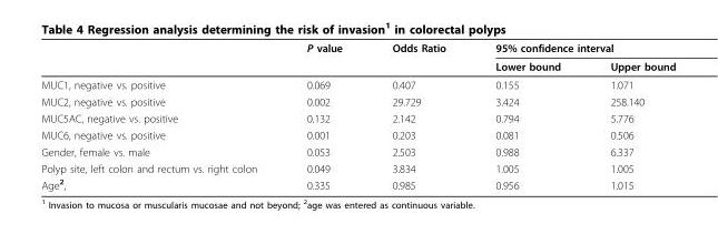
<table><thead><tr><td rowspan="2"></td><td rowspan="2">P value</td><td rowspan="2">Odds Ratio</td><td colspan="2">95% confidence interval</td></tr><tr><td>Lower bound</td><td>Upper bound</td></tr></thead><tbody><tr><td>MUC1, negative vs. positive</td><td>0.069</td><td>0.407</td><td>0.155</td><td>1.071</td></tr><tr><td>MUC2, negative vs. positive</td><td>0.002</td><td>29.729</td><td>3.424</td><td>258.140</td></tr><tr><td>MUC5AC, negative vs. positive</td><td>0.132</td><td>2.142</td><td>0.794</td><td>5.776</td></tr><tr><td>MUC6, negative vs. positive</td><td>0.001</td><td>0.203</td><td>0.081</td><td>0.506</td></tr><tr><td>Gender, female vs. male</td><td>0.053</td><td>2.503</td><td>0.988</td><td>6.337</td></tr><tr><td>Polyp site, left colon and rectum vs. right colon</td><td>0.049</td><td>3.834</td><td>1.005</td><td>1.005</td></tr><tr><td>Age<sup>2</sup>,</td><td>0.335</td><td>0.985</td><td>0.956</td><td>1.015</td></tr></tbody></table>